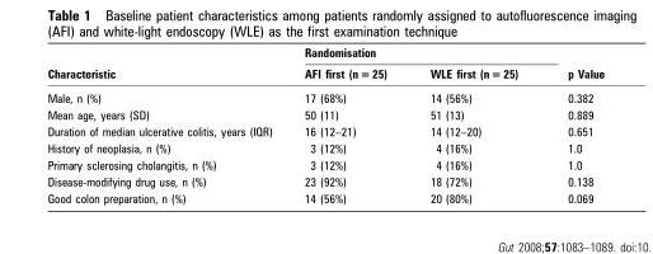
<table><thead><tr><td rowspan="2">Characteristic</td><td colspan="2">Randomisation</td><td rowspan="2">p Value</td></tr><tr><td>AFI first (n = 25)</td><td>WLE first (n = 25)</td></tr></thead><tbody><tr><td>Male, n (%)</td><td>17 (68%)</td><td>14 (56%)</td><td>0.382</td></tr><tr><td>Mean age, years (SD)</td><td>50 (11)</td><td>51 (13)</td><td>0.889</td></tr><tr><td>Duration of median ulcerative colitis, years (IQR)</td><td>16 (12–21)</td><td>14 (12–20)</td><td>0.651</td></tr><tr><td>History of neoplasia, n (%)</td><td>3 (12%)</td><td>4 (16%)</td><td>1.0</td></tr><tr><td>Primary sclerosing cholangitis, n (%)</td><td>3 (12%)</td><td>4 (16%)</td><td>1.0</td></tr><tr><td>Disease-modifying drug use, n (%)</td><td>23 (92%)</td><td>18 (72%)</td><td>0.138</td></tr><tr><td>Good colon preparation, n (%)</td><td>14 (56%)</td><td>20 (80%)</td><td>0.069</td></tr></tbody></table>